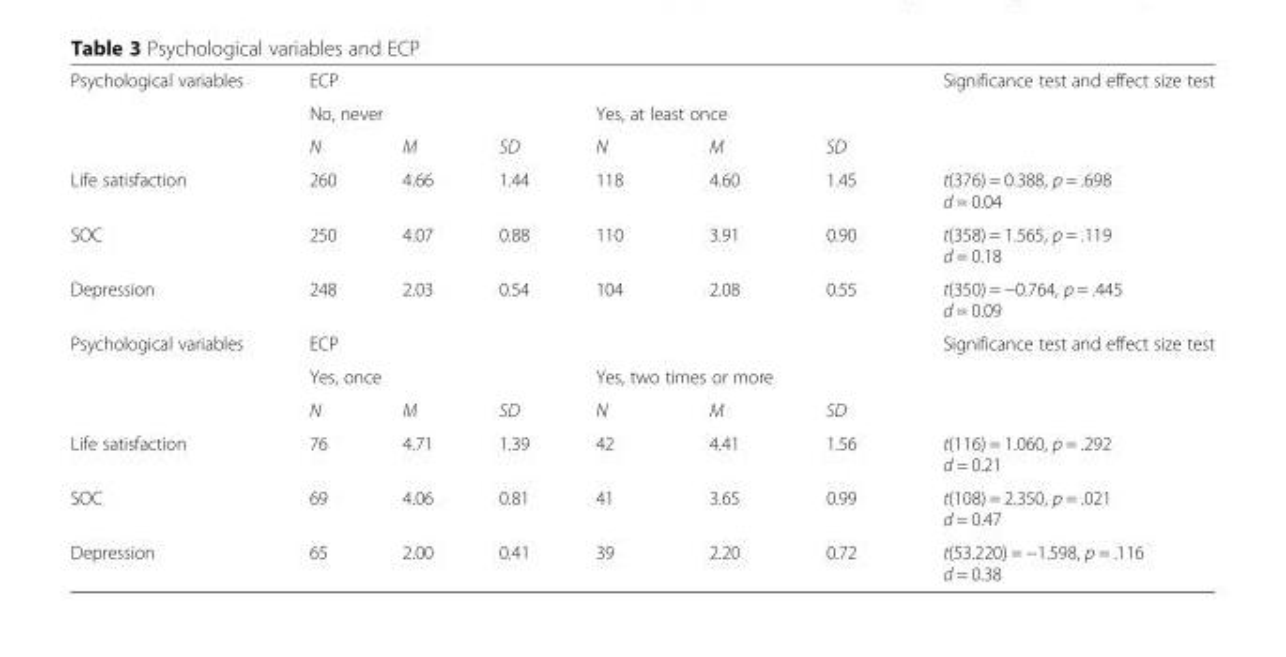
<table><tbody><tr><td rowspan="3">Psychological variables</td><td colspan="6">ECP</td><td rowspan="3">Significance test and effect size test</td></tr><tr><td colspan="3">No, never</td><td colspan="3">Yes, at least once</td></tr><tr><td>N</td><td>M</td><td>SD</td><td>N</td><td>M</td><td>SD</td></tr><tr><td>Life satisfaction</td><td>260</td><td>4.66</td><td>1.44</td><td>118</td><td>4.60</td><td>1.45</td><td>t(376) = 0.388, p = .698 d = 0.04</td></tr><tr><td>SOC</td><td>250</td><td>4.07</td><td>0.88</td><td>110</td><td>3.91</td><td>0.90</td><td>t(358) = 1.565, p = .119 d = 0.18</td></tr><tr><td>Depression</td><td>248</td><td>2.03</td><td>0.54</td><td>104</td><td>2.08</td><td>0.55</td><td>t(350) = −0.764, p = .445 d = 0.09</td></tr><tr><td rowspan="3">Psychological variables</td><td colspan="6">ECP</td><td rowspan="3">Significance test and effect size test</td></tr><tr><td colspan="3">Yes, once</td><td colspan="3">Yes, two times or more</td></tr><tr><td>N</td><td>M</td><td>SD</td><td>N</td><td>M</td><td>SD</td></tr><tr><td>Life satisfaction</td><td>76</td><td>4.71</td><td>1.39</td><td>42</td><td>4.41</td><td>1.56</td><td>t(116) = 1.060, p = .292 d = 0.21</td></tr><tr><td>SOC</td><td>69</td><td>4.06</td><td>0.81</td><td>41</td><td>3.65</td><td>0.99</td><td>t(108) = 2.350, p = .021 d = 0.47</td></tr><tr><td>Depression</td><td>65</td><td>2.00</td><td>0.41</td><td>39</td><td>2.20</td><td>0.72</td><td>t(53.220) = −1.598, p = .116 d = 0.38</td></tr></tbody></table>